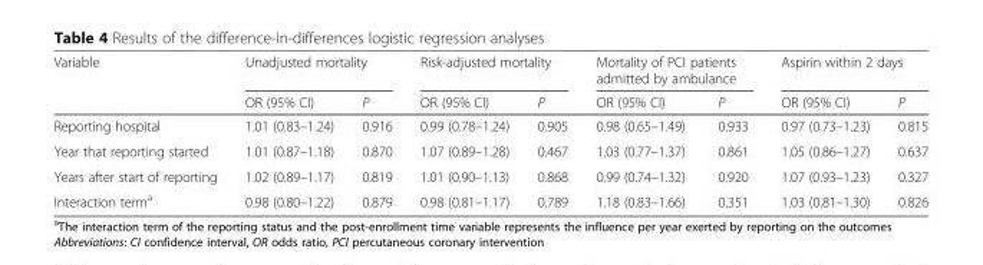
<table><thead><tr><td rowspan="2">Variable</td><td colspan="2">Unadjusted mortality</td><td colspan="2">Risk-adjusted mortality</td><td colspan="2">Mortality of PCI patients admitted by ambulance</td><td colspan="2">Aspirin within 2 days</td></tr><tr><td>OR (95% CI)</td><td>P</td><td>OR (95% CI)</td><td>P</td><td>OR (95% CI)</td><td>P</td><td>OR (95% CI)</td><td>P</td></tr></thead><tbody><tr><td>Reporting hospital</td><td>1.01 (0.83–1.24)</td><td>0.916</td><td>0.99 (0.78–1.24)</td><td>0.905</td><td>0.98 (0.65–1.49)</td><td>0.933</td><td>0.97 (0.73–1.23)</td><td>0.815</td></tr><tr><td>Year that reporting started</td><td>1.01 (0.87–1.18)</td><td>0.870</td><td>1.07 (0.89–1.28)</td><td>0.467</td><td>1.03 (0.77–1.37)</td><td>0.861</td><td>1.05 (0.86–1.27)</td><td>0.637</td></tr><tr><td>Years after start of reporting</td><td>1.02 (0.89–1.17)</td><td>0.819</td><td>1.01 (0.90–1.13)</td><td>0.868</td><td>0.99 (0.74–1.32)</td><td>0.920</td><td>1.07 (0.93–1.23)</td><td>0.327</td></tr><tr><td>Interaction term<sup>a</sup></td><td>0.98 (0.80–1.22)</td><td>0.879</td><td>0.98 (0.81–1.17)</td><td>0.789</td><td>1.18 (0.83–1.66)</td><td>0.351</td><td>1.03 (0.81–1.30)</td><td>0.826</td></tr></tbody></table>